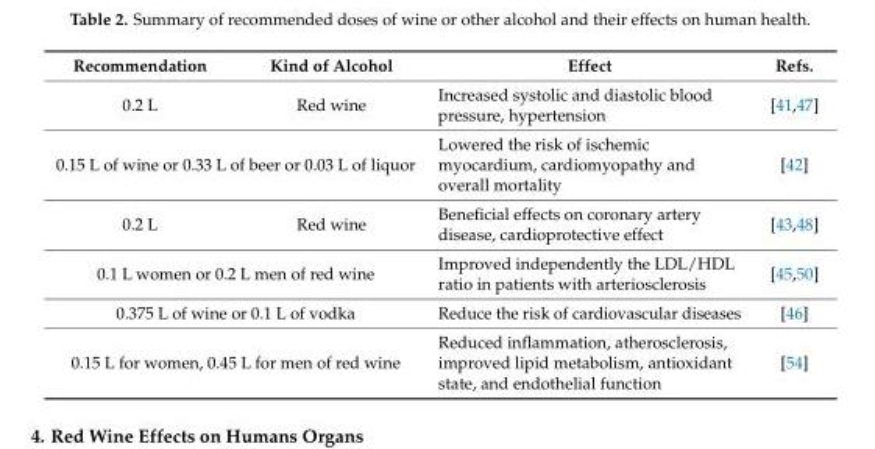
<table><thead><tr><td>Recommendation</td><td>Kind of Alcohol</td><td>Effect</td><td>Refs.</td></tr></thead><tbody><tr><td>0.2 L</td><td>Red wine</td><td>Increased systolic and diastolic blood pressure, hypertension</td><td>[41,47]</td></tr><tr><td colspan="2">0.15 L of wine or 0.33 L of beer or 0.03 L of liquor</td><td>Lowered the risk of ischemic myocardium, cardiomyopathy and overall mortality</td><td>[42]</td></tr><tr><td>0.2 L</td><td>Red wine</td><td>Beneficial effects on coronary artery disease, cardioprotective effect</td><td>[43,48]</td></tr><tr><td colspan="2">0.1 L women or 0.2 L men of red wine</td><td>Improved independently the LDL/HDL ratio in patients with arteriosclerosis</td><td>[45,50]</td></tr><tr><td colspan="2">0.375 L of wine or 0.1 L of vodka</td><td>Reduce the risk of cardiovascular diseases</td><td>[46]</td></tr><tr><td colspan="2">0.15 L for women, 0.45 L for men of red wine</td><td>Reduced inflammation, atherosclerosis, improved lipid metabolism, antioxidant state, and endothelial function</td><td>[54]</td></tr></tbody></table>